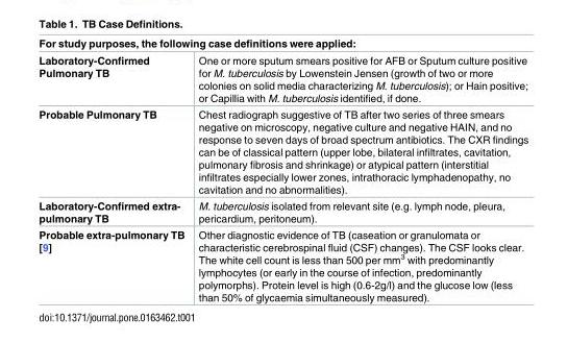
<table><thead><tr><td colspan="2">For study purposes, the following case definitions were applied:</td></tr><tr><td>Laboratory-Confirmed Pulmonary TB</td><td>One or more sputum smears positive for AFB or Sputum culture positive for M. tuberculosis by Lowenstein Jensen (growth of two or more colonies on solid media characterizing M. tuberculosis); or Hain positive; or Capillia with M. tuberculosis identified, if done.</td></tr></thead><tbody><tr><td>Probable Pulmonary TB</td><td>Chest radiograph suggestive of TB after two series of three smears negative on microscopy, negative culture and negative HAIN, and no response to seven days of broad spectrum antibiotics. The CXR findings can be of classical pattern (upper lobe, bilateral infiltrates, cavitation, pulmonary fibrosis and shrinkage) or atypical pattern (interstitial infiltrates especially lower zones, intrathoracic lymphadenopathy, no cavitation and no abnormalities).</td></tr><tr><td>Laboratory-Confirmed extra- pulmonary TB</td><td>M. tuberculosis isolated from relevant site (e.g. lymph node, pleura, pericardium, peritoneum).</td></tr><tr><td>Probable extra-pulmonary TB [9]</td><td>Other diagnostic evidence of TB (caseation or granulomata or characteristic cerebrospinal fluid (CSF) changes). The CSF looks clear. The white cell count is less than 500 per mm<sup>3</sup> with predominantly lymphocytes (or early in the course of infection, predominantly polymorphs). Protein level is high (0.6-2g/l) and the glucose low (less than 50% of glycaemia simultaneously measured).</td></tr></tbody></table>